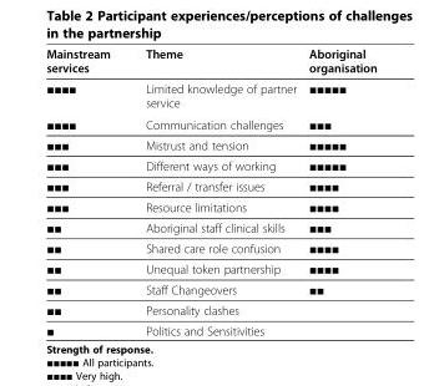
<table><thead><tr><td>Mainstream services</td><td>Theme</td><td>Aboriginal organisation</td></tr></thead><tbody><tr><td>■■■■</td><td>Limited knowledge of partner service</td><td>■■■■■</td></tr><tr><td>■■■■</td><td>Communication challenges</td><td>■■■</td></tr><tr><td>■■■</td><td>Mistrust and tension</td><td>■■■■■</td></tr><tr><td>■■■</td><td>Different ways of working</td><td>■■■■■</td></tr><tr><td>■■■</td><td>Referral / transfer issues</td><td>■■■■</td></tr><tr><td>■■■</td><td>Resource limitations</td><td>■■■■</td></tr><tr><td>■■</td><td>Aboriginal staff clinical skills</td><td>■■■</td></tr><tr><td>■■</td><td>Shared care role confusion</td><td>■■■■</td></tr><tr><td>■■</td><td>Unequal token partnership</td><td>■■■■</td></tr><tr><td>■■</td><td>Staff Changeovers</td><td>■■</td></tr><tr><td>■■</td><td>Personality clashes</td><td></td></tr><tr><td>■</td><td>Politics and Sensitivities</td><td></td></tr></tbody></table>